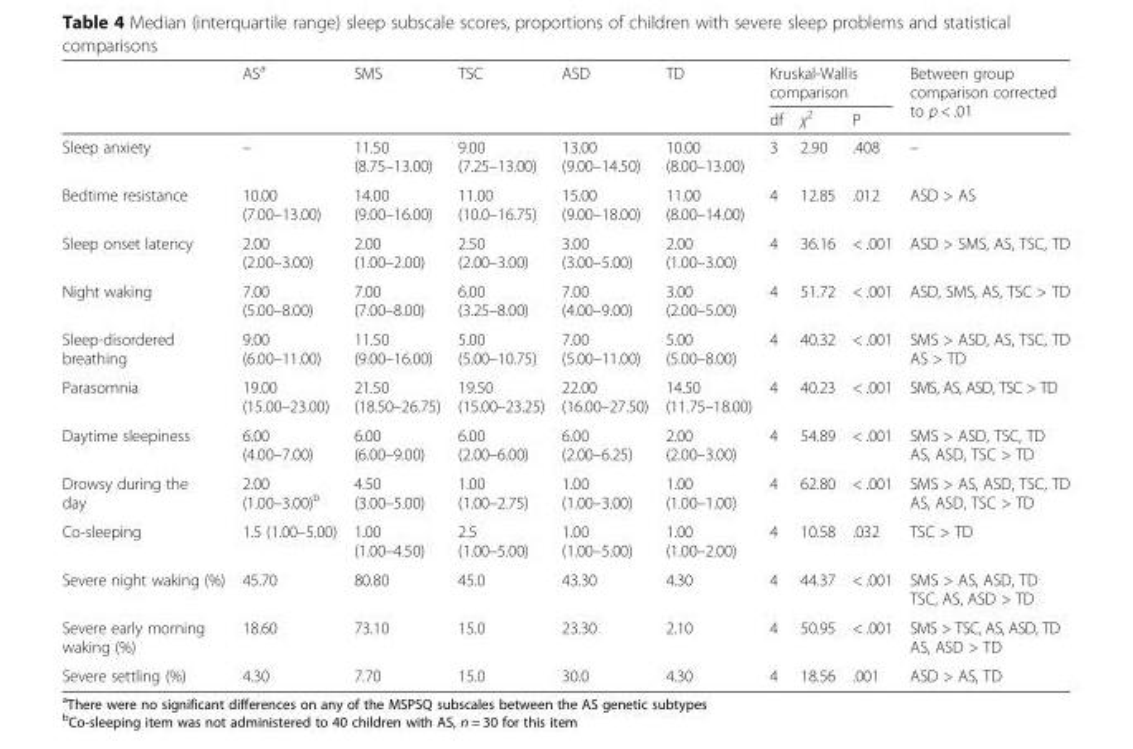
<table><thead><tr><td rowspan="2"></td><td rowspan="2">AS<sup>a</sup></td><td rowspan="2">SMS</td><td rowspan="2">TSC</td><td rowspan="2">ASD</td><td rowspan="2">TD</td><td colspan="3">Kruskal-Wallis comparison</td><td rowspan="2">Between group comparison corrected to p &lt; .01</td></tr><tr><td>df</td><td>χ<sup>2</sup></td><td>P</td></tr></thead><tbody><tr><td>Sleep anxiety</td><td>–</td><td>11.50 (8.75–13.00)</td><td>9.00 (7.25–13.00)</td><td>13.00 (9.00–14.50)</td><td>10.00 (8.00–13.00)</td><td>3</td><td>2.90</td><td>.408</td><td>–</td></tr><tr><td>Bedtime resistance</td><td>10.00 (7.00–13.00)</td><td>14.00 (9.00–16.00)</td><td>11.00 (10.0–16.75)</td><td>15.00 (9.00–18.00)</td><td>11.00 (8.00–14.00)</td><td>4</td><td>12.85</td><td>.012</td><td>ASD &gt; AS</td></tr><tr><td>Sleep onset latency</td><td>2.00 (2.00–3.00)</td><td>2.00 (1.00–2.00)</td><td>2.50 (2.00–3.00)</td><td>3.00 (3.00–5.00)</td><td>2.00 (1.00–3.00)</td><td>4</td><td>36.16</td><td>&lt; .001</td><td>ASD &gt; SMS, AS, TSC, TD</td></tr><tr><td>Night waking</td><td>7.00 (5.00–8.00)</td><td>7.00 (7.00–8.00)</td><td>6.00 (3.25–8.00)</td><td>7.00 (4.00–9.00)</td><td>3.00 (2.00–5.00)</td><td>4</td><td>51.72</td><td>&lt; .001</td><td>ASD, SMS, AS, TSC &gt; TD</td></tr><tr><td>Sleep-disordered breathing</td><td>9.00 (6.00–11.00)</td><td>11.50 (9.00–16.00)</td><td>5.00 (5.00–10.75)</td><td>7.00 (5.00–11.00)</td><td>5.00 (5.00–8.00)</td><td>4</td><td>40.32</td><td>&lt; .001</td><td>SMS &gt; ASD, AS, TSC, TD AS &gt; TD</td></tr><tr><td>Parasomnia</td><td>19.00 (15.00–23.00)</td><td>21.50 (18.50–26.75)</td><td>19.50 (15.00–23.25)</td><td>22.00 (16.00–27.50)</td><td>14.50 (11.75–18.00)</td><td>4</td><td>40.23</td><td>&lt; .001</td><td>SMS, AS, ASD, TSC &gt; TD</td></tr><tr><td>Daytime sleepiness</td><td>6.00 (4.00–7.00)</td><td>6.00 (6.00–9.00)</td><td>6.00 (2.00–6.00)</td><td>6.00 (2.00–6.25)</td><td>2.00 (2.00–3.00)</td><td>4</td><td>54.89</td><td>&lt; .001</td><td>SMS &gt; ASD, TSC, TD AS, ASD, TSC &gt; TD</td></tr><tr><td>Drowsy during the day</td><td>2.00 (1.00–3.00)<sup>b</sup></td><td>4.50 (3.00–5.00)</td><td>1.00 (1.00–2.75)</td><td>1.00 (1.00–3.00)</td><td>1.00 (1.00–1.00)</td><td>4</td><td>62.80</td><td>&lt; .001</td><td>SMS &gt; AS, ASD, TSC, TD AS, ASD, TSC &gt; TD</td></tr><tr><td>Co-sleeping</td><td>1.5 (1.00–5.00)</td><td>1.00 (1.00–4.50)</td><td>2.5 (1.00–5.00)</td><td>1.00 (1.00–5.00)</td><td>1.00 (1.00–2.00)</td><td>4</td><td>10.58</td><td>.032</td><td>TSC &gt; TD</td></tr><tr><td>Severe night waking (%)</td><td>45.70</td><td>80.80</td><td>45.0</td><td>43.30</td><td>4.30</td><td>4</td><td>44.37</td><td>&lt; .001</td><td>SMS &gt; AS, ASD, TD TSC, AS, ASD &gt; TD</td></tr><tr><td>Severe early morning waking (%)</td><td>18.60</td><td>73.10</td><td>15.0</td><td>23.30</td><td>2.10</td><td>4</td><td>50.95</td><td>&lt; .001</td><td>SMS &gt; TSC, AS, ASD, TD AS, ASD &gt; TD</td></tr><tr><td>Severe settling (%)</td><td>4.30</td><td>7.70</td><td>15.0</td><td>30.0</td><td>4.30</td><td>4</td><td>18.56</td><td>.001</td><td>ASD &gt; AS, TD</td></tr></tbody></table>